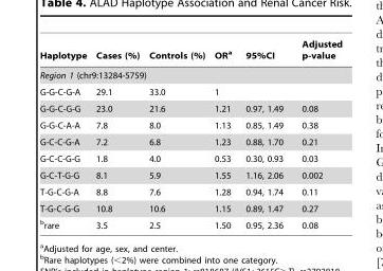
<table><thead><tr><td>Haplotype</td><td>Cases (%)</td><td>Controls (%)</td><td>OR<sup>a</sup></td><td>95%CI</td><td>Adjusted p-value</td></tr></thead><tbody><tr><td colspan="6">Region 1 (chr9:13284-5759)</td></tr><tr><td>G-G-C-G-A</td><td>29.1</td><td>33.0</td><td>1</td><td></td><td></td></tr><tr><td>G-G-C-G-G</td><td>23.0</td><td>21.6</td><td>1.21</td><td>0.97, 1.49</td><td>0.08</td></tr><tr><td>G-G-C-A-A</td><td>7.8</td><td>8.0</td><td>1.13</td><td>0.85, 1.49</td><td>0.38</td></tr><tr><td>G-C-C-G-A</td><td>7.2</td><td>6.8</td><td>1.23</td><td>0.88, 1.70</td><td>0.21</td></tr><tr><td>G-C-C-G-G</td><td>1.8</td><td>4.0</td><td>0.53</td><td>0.30, 0.93</td><td>0.03</td></tr><tr><td>G-C-T-G-G</td><td>8.1</td><td>5.9</td><td>1.55</td><td>1.16, 2.06</td><td>0.002</td></tr><tr><td>T-G-C-G-A</td><td>8.8</td><td>7.6</td><td>1.28</td><td>0.94, 1.74</td><td>0.11</td></tr><tr><td>T-G-C-G-G</td><td>10.8</td><td>10.6</td><td>1.15</td><td>0.89, 1.47</td><td>0.27</td></tr><tr><td>brare</td><td>3.5</td><td>2.5</td><td>1.50</td><td>0.95, 2.36</td><td>0.08</td></tr></tbody></table>